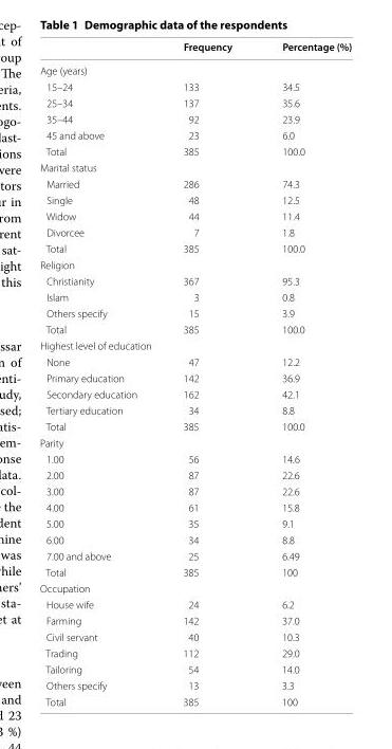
<table><thead><tr><td></td><td>Frequency</td><td>Percentage (%)</td></tr></thead><tbody><tr><td colspan="3">Age (years)</td></tr><tr><td>15–24</td><td>133</td><td>34.5</td></tr><tr><td>25–34</td><td>137</td><td>35.6</td></tr><tr><td>35–44</td><td>92</td><td>23.9</td></tr><tr><td>45 and above</td><td>23</td><td>6.0</td></tr><tr><td>Total</td><td>385</td><td>100.0</td></tr><tr><td colspan="3">Marital status</td></tr><tr><td>Married</td><td>286</td><td>74.3</td></tr><tr><td>Single</td><td>48</td><td>12.5</td></tr><tr><td>Widow</td><td>44</td><td>11.4</td></tr><tr><td>Divorcee</td><td>7</td><td>1.8</td></tr><tr><td>Total</td><td>385</td><td>100.0</td></tr><tr><td colspan="3">Religion</td></tr><tr><td>Christianity</td><td>367</td><td>95.3</td></tr><tr><td>Islam</td><td>3</td><td>0.8</td></tr><tr><td>Others specify</td><td>15</td><td>3.9</td></tr><tr><td>Total</td><td>385</td><td>100.0</td></tr><tr><td colspan="3">Highest level of education</td></tr><tr><td>None</td><td>47</td><td>12.2</td></tr><tr><td>Primary education</td><td>142</td><td>36.9</td></tr><tr><td>Secondary education</td><td>162</td><td>42.1</td></tr><tr><td>Tertiary education</td><td>34</td><td>8.8</td></tr><tr><td>Total</td><td>385</td><td>100.0</td></tr><tr><td colspan="3">Parity</td></tr><tr><td>1.00</td><td>56</td><td>14.6</td></tr><tr><td>2.00</td><td>87</td><td>22.6</td></tr><tr><td>3.00</td><td>87</td><td>22.6</td></tr><tr><td>4.00</td><td>61</td><td>15.8</td></tr><tr><td>5.00</td><td>35</td><td>9.1</td></tr><tr><td>6.00</td><td>34</td><td>8.8</td></tr><tr><td>7.00 and above</td><td>25</td><td>6.49</td></tr><tr><td>Total</td><td>385</td><td>100</td></tr><tr><td colspan="3">Occupation</td></tr><tr><td>House wife</td><td>24</td><td>6.2</td></tr><tr><td>Farming</td><td>142</td><td>37.0</td></tr><tr><td>Civil servant</td><td>40</td><td>10.3</td></tr><tr><td>Trading</td><td>112</td><td>29.0</td></tr><tr><td>Tailoring</td><td>54</td><td>14.0</td></tr><tr><td>Others specify</td><td>13</td><td>3.3</td></tr><tr><td>Total</td><td>385</td><td>100</td></tr></tbody></table>